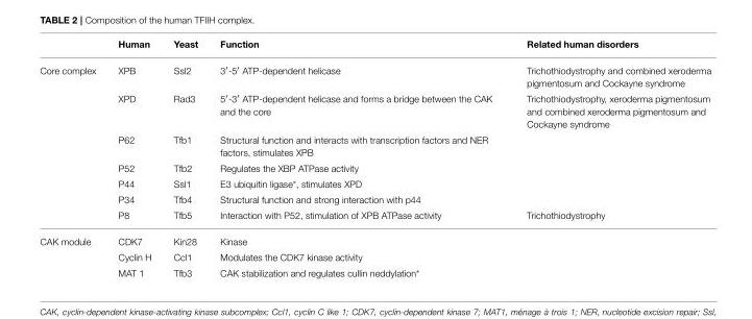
<table><thead><tr><td></td><td>Human</td><td>Yeast</td><td>Function</td><td>Related human disorders</td></tr></thead><tbody><tr><td rowspan="7">Core complex</td><td>XPB</td><td>Ssl2</td><td>3′-5′ ATP-dependent helicase</td><td>Trichothiodystrophy and combined xeroderma pigmentosum and Cockayne syndrome</td></tr><tr><td>XPD</td><td>Rad3</td><td>5′-3′ ATP-dependent helicase and forms a bridge between the CAK and the core</td><td>Trichothiodystrophy, xeroderma pigmentosum and combined xeroderma pigmentosum and Cockayne syndrome</td></tr><tr><td>P62</td><td>Tfb1</td><td>Structural function and interacts with transcription factors and NER factors, stimulates XPB</td><td></td></tr><tr><td>P52</td><td>Tfb2</td><td>Regulates the XBP ATPase activity</td><td></td></tr><tr><td>P44</td><td>Ssl1</td><td>E3 ubiquitin ligase*, stimulates XPD</td><td></td></tr><tr><td>P34</td><td>Tfb4</td><td>Structural function and strong interaction with p44</td><td></td></tr><tr><td>P8</td><td>Tfb5</td><td>Interaction with P52, stimulation of XPB ATPase activity</td><td>Trichothiodystrophy</td></tr><tr><td rowspan="3">CAK module</td><td>CDK7</td><td>Kin28</td><td>Kinase</td><td></td></tr><tr><td>Cyclin H</td><td>Ccl1</td><td>Modulates the CDK7 kinase activity</td><td></td></tr><tr><td>MAT 1</td><td>Tfb3</td><td>CAK stabilization and regulates cullin neddylation*</td><td></td></tr></tbody></table>